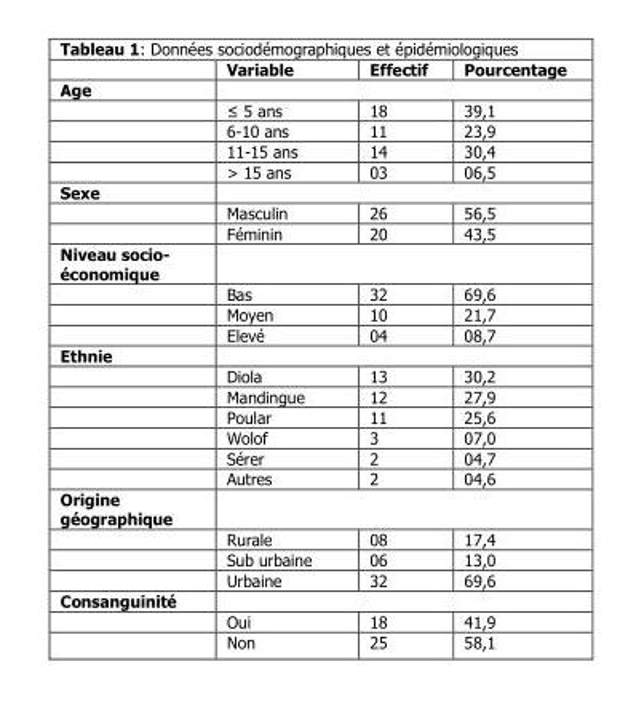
<table><thead><tr><td></td><td>Variable</td><td>Effectif</td><td>Pourcentage</td></tr></thead><tbody><tr><td colspan="4">Age</td></tr><tr><td></td><td>≤ 5 ans</td><td>18</td><td>39,1</td></tr><tr><td></td><td>6-10 ans</td><td>11</td><td>23,9</td></tr><tr><td></td><td>11-15 ans</td><td>14</td><td>30,4</td></tr><tr><td></td><td>&gt; 15 ans</td><td>03</td><td>06,5</td></tr><tr><td colspan="4">Sexe</td></tr><tr><td></td><td>Masculin</td><td>26</td><td>56,5</td></tr><tr><td></td><td>Féminin</td><td>20</td><td>43,5</td></tr><tr><td colspan="4">Niveau socio- économique</td></tr><tr><td></td><td>Bas</td><td>32</td><td>69,6</td></tr><tr><td></td><td>Moyen</td><td>10</td><td>21,7</td></tr><tr><td></td><td>Elevé</td><td>04</td><td>08,7</td></tr><tr><td colspan="4">Ethnie</td></tr><tr><td></td><td>Diola</td><td>13</td><td>30,2</td></tr><tr><td></td><td>Mandingue</td><td>12</td><td>27,9</td></tr><tr><td></td><td>Poular</td><td>11</td><td>25,6</td></tr><tr><td></td><td>Wolof</td><td>3</td><td>07,0</td></tr><tr><td></td><td>Sérer</td><td>2</td><td>04,7</td></tr><tr><td></td><td>Autres</td><td>2</td><td>04,6</td></tr><tr><td colspan="4">Origine géographique</td></tr><tr><td></td><td>Rurale</td><td>08</td><td>17,4</td></tr><tr><td></td><td>Sub urbaine</td><td>06</td><td>13,0</td></tr><tr><td></td><td>Urbaine</td><td>32</td><td>69,6</td></tr><tr><td colspan="4">Consanguinité</td></tr><tr><td></td><td>Oui</td><td>18</td><td>41,9</td></tr><tr><td></td><td>Non</td><td>25</td><td>58,1</td></tr></tbody></table>